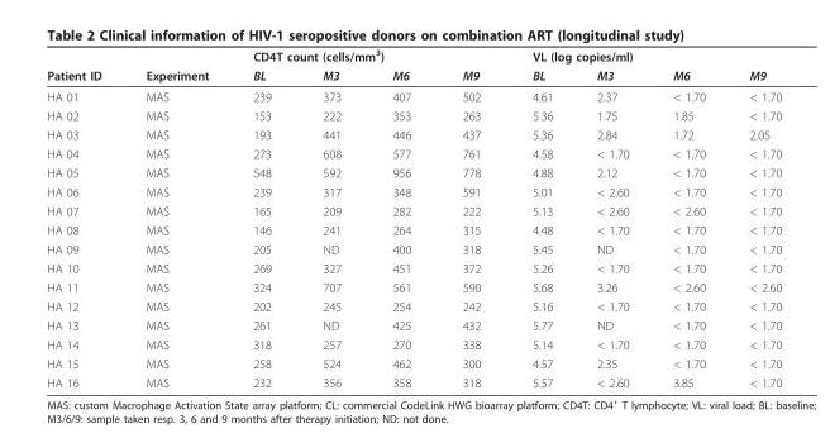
<table><thead><tr><td rowspan="2">Patient ID</td><td rowspan="2">Experiment</td><td colspan="4">CD4T count (cells/mm<sup>3</sup>)</td><td colspan="4">VL (log copies/ml)</td></tr><tr><td>BL</td><td>M3</td><td>M6</td><td>M9</td><td>BL</td><td>M3</td><td>M6</td><td>M9</td></tr></thead><tbody><tr><td>HA 01</td><td>MAS</td><td>239</td><td>373</td><td>407</td><td>502</td><td>4.61</td><td>2.37</td><td>&lt; 1.70</td><td>&lt; 1.70</td></tr><tr><td>HA 02</td><td>MAS</td><td>153</td><td>222</td><td>353</td><td>263</td><td>5.36</td><td>1.75</td><td>1.85</td><td>&lt; 1.70</td></tr><tr><td>HA 03</td><td>MAS</td><td>193</td><td>441</td><td>446</td><td>437</td><td>5.36</td><td>2.84</td><td>1.72</td><td>2.05</td></tr><tr><td>HA 04</td><td>MAS</td><td>273</td><td>608</td><td>577</td><td>761</td><td>4.58</td><td>&lt; 1.70</td><td>&lt; 1.70</td><td>&lt; 1.70</td></tr><tr><td>HA 05</td><td>MAS</td><td>548</td><td>592</td><td>956</td><td>778</td><td>4.88</td><td>2.12</td><td>&lt; 1.70</td><td>&lt; 1.70</td></tr><tr><td>HA 06</td><td>MAS</td><td>239</td><td>317</td><td>348</td><td>591</td><td>5.01</td><td>&lt; 2.60</td><td>&lt; 1.70</td><td>&lt; 1.70</td></tr><tr><td>HA 07</td><td>MAS</td><td>165</td><td>209</td><td>282</td><td>222</td><td>5.13</td><td>&lt; 2.60</td><td>&lt; 2.60</td><td>&lt; 1.70</td></tr><tr><td>HA 08</td><td>MAS</td><td>146</td><td>241</td><td>264</td><td>315</td><td>4.48</td><td>&lt; 1.70</td><td>&lt; 1.70</td><td>&lt; 1.70</td></tr><tr><td>HA 09</td><td>MAS</td><td>205</td><td>ND</td><td>400</td><td>318</td><td>5.45</td><td>ND</td><td>&lt; 1.70</td><td>&lt; 1.70</td></tr><tr><td>HA 10</td><td>MAS</td><td>269</td><td>327</td><td>451</td><td>372</td><td>5.26</td><td>&lt; 1.70</td><td>&lt; 1.70</td><td>&lt; 1.70</td></tr><tr><td>HA 11</td><td>MAS</td><td>324</td><td>707</td><td>561</td><td>590</td><td>5.68</td><td>3.26</td><td>&lt; 2.60</td><td>&lt; 2.60</td></tr><tr><td>HA 12</td><td>MAS</td><td>202</td><td>245</td><td>254</td><td>242</td><td>5.16</td><td>&lt; 1.70</td><td>&lt; 1.70</td><td>&lt; 1.70</td></tr><tr><td>HA 13</td><td>MAS</td><td>261</td><td>ND</td><td>425</td><td>432</td><td>5.77</td><td>ND</td><td>&lt; 1.70</td><td>&lt; 1.70</td></tr><tr><td>HA 14</td><td>MAS</td><td>318</td><td>257</td><td>270</td><td>338</td><td>5.14</td><td>&lt; 1.70</td><td>&lt; 1.70</td><td>&lt; 1.70</td></tr><tr><td>HA 15</td><td>MAS</td><td>258</td><td>524</td><td>462</td><td>300</td><td>4.57</td><td>2.35</td><td>&lt; 1.70</td><td>&lt; 1.70</td></tr><tr><td>HA 16</td><td>MAS</td><td>232</td><td>356</td><td>358</td><td>318</td><td>5.57</td><td>&lt; 2.60</td><td>3.85</td><td>&lt; 1.70</td></tr></tbody></table>